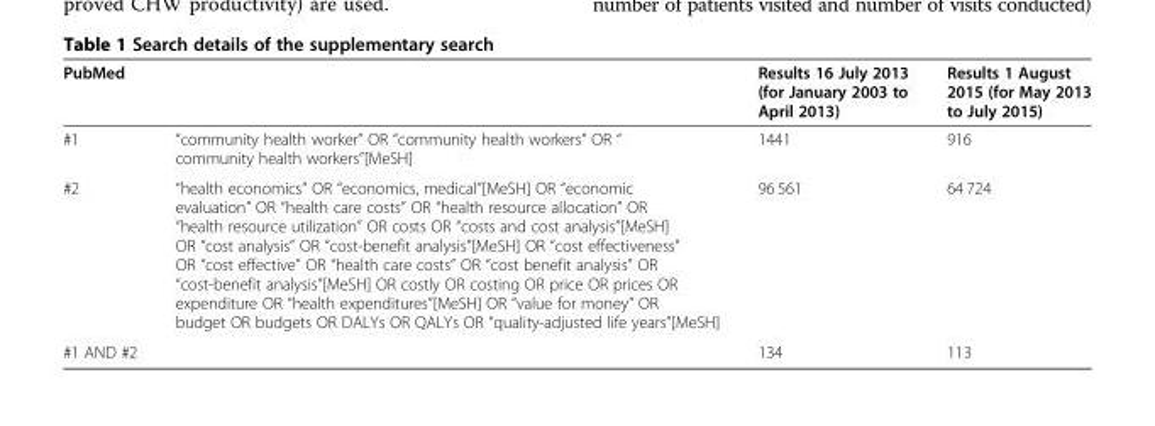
<table><thead><tr><td colspan="2">PubMed</td><td rowspan="2">Results 16 July 2013 (for January 2003 to April 2013) 1441</td><td rowspan="2">Results 1 August 2015 (for May 2013 to July 2015) 916</td></tr><tr><td>#1</td><td>“community health worker” OR “community health workers” OR “ community health workers”[MeSH]</td></tr></thead><tbody><tr><td>#2</td><td>“health economics” OR “economics, medical”[MeSH] OR “economic evaluation” OR “health care costs” OR “health resource allocation” OR “health resource utilization” OR costs OR “costs and cost analysis”[MeSH] OR “cost analysis” OR “cost-benefit analysis”[MeSH] OR “cost effectiveness” OR “cost effective” OR “health care costs” OR “cost benefit analysis” OR “cost-benefit analysis”[MeSH] OR costly OR costing OR price OR prices OR expenditure OR “health expenditures”[MeSH] OR “value for money” OR budget OR budgets OR DALYs OR QALYs OR “quality-adjusted life years”[MeSH]</td><td>96 561</td><td>64 724</td></tr><tr><td>#1 AND #2</td><td></td><td>134</td><td>113</td></tr></tbody></table>